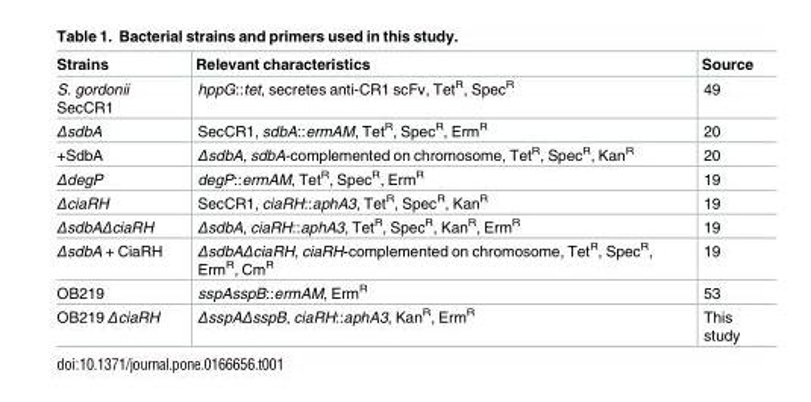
<table><thead><tr><td>Strains</td><td>Relevant characteristics</td><td>Source</td></tr></thead><tbody><tr><td>S. gordonii SecCR1</td><td>hppG::tet, secretes anti-CR1 scFv, Tet<sup>R</sup>, Spec<sup>R</sup></td><td>49</td></tr><tr><td>ΔsdbA</td><td>SecCR1, sdbA::ermAM, Tet<sup>R</sup>, Spec<sup>R</sup>, Erm<sup>R</sup></td><td>20</td></tr><tr><td>+SdbA</td><td>ΔsdbA, sdbA-complemented on chromosome, Tet<sup>R</sup>, Spec<sup>R</sup>, Kan<sup>R</sup></td><td>20</td></tr><tr><td>ΔdegP</td><td>degP::ermAM, Tet<sup>R</sup>, Spec<sup>R</sup>, Erm<sup>R</sup></td><td>19</td></tr><tr><td>ΔciaRH</td><td>SecCR1, ciaRH::aphA3, Tet<sup>R</sup>, Spec<sup>R</sup>, Kan<sup>R</sup></td><td>19</td></tr><tr><td>ΔsdbAΔciaRH</td><td>ΔsdbA, ciaRH::aphA3, Tet<sup>R</sup>, Spec<sup>R</sup>, Kan<sup>R</sup>, Erm<sup>R</sup></td><td>19</td></tr><tr><td>ΔsdbA + CiaRH</td><td>ΔsdbAΔciaRH, ciaRH-complemented on chromosome, Tet<sup>R</sup>, Spec<sup>R</sup>, Erm<sup>R</sup>, Cm<sup>R</sup></td><td>19</td></tr><tr><td>OB219</td><td>sspAsspB::ermAM, Erm<sup>R</sup></td><td>53</td></tr><tr><td>OB219 ΔciaRH</td><td>ΔsspAΔsspB, ciaRH::aphA3, Kan<sup>R</sup>, Erm<sup>R</sup></td><td>This study</td></tr></tbody></table>